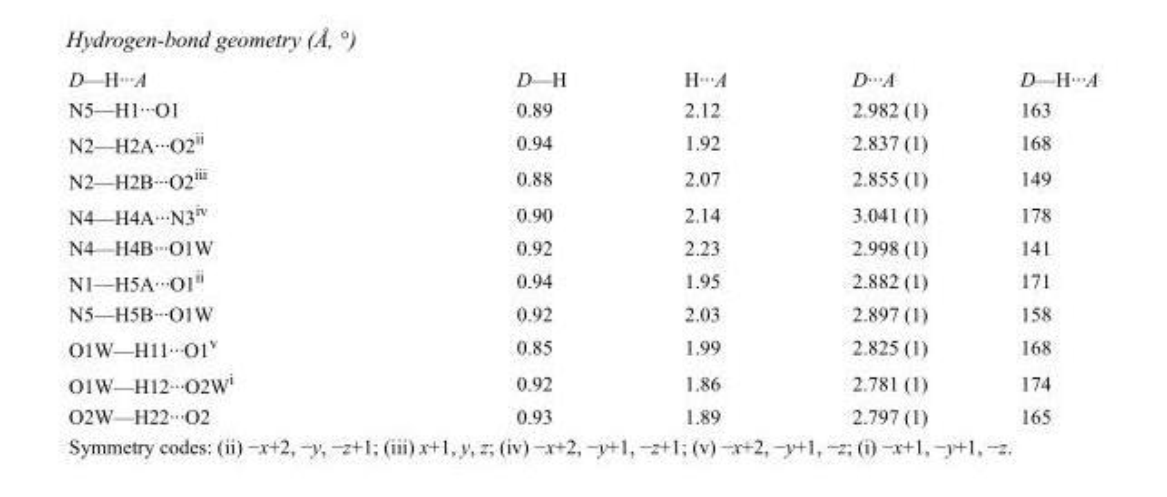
<table><tbody><tr><td>D—H···A</td><td>D—H</td><td>H···A</td><td>D···A</td><td>D—H···A</td></tr><tr><td>N5—H1···O1</td><td>0.89</td><td>2.12</td><td>2.982 (1)</td><td>163</td></tr><tr><td>N2—H2A···O2<sup>ii</sup></td><td>0.94</td><td>1.92</td><td>2.837 (1)</td><td>168</td></tr><tr><td>N2—H2B···O2<sup>iii</sup></td><td>0.88</td><td>2.07</td><td>2.855 (1)</td><td>149</td></tr><tr><td>N4—H4A···N3<sup>iv</sup></td><td>0.90</td><td>2.14</td><td>3.041 (1)</td><td>178</td></tr><tr><td>N4—H4B···O1W</td><td>0.92</td><td>2.23</td><td>2.998 (1)</td><td>141</td></tr><tr><td>N1—H5A···O1<sup>ii</sup></td><td>0.94</td><td>1.95</td><td>2.882 (1)</td><td>171</td></tr><tr><td>N5—H5B···O1W</td><td>0.92</td><td>2.03</td><td>2.897 (1)</td><td>158</td></tr><tr><td>O1W—H11···O1<sup>v</sup></td><td>0.85</td><td>1.99</td><td>2.825 (1)</td><td>168</td></tr><tr><td>O1W—H12···O2W<sup>i</sup></td><td>0.92</td><td>1.86</td><td>2.781 (1)</td><td>174</td></tr><tr><td>O2W—H22···O2</td><td>0.93</td><td>1.89</td><td>2.797 (1)</td><td>165</td></tr></tbody></table>